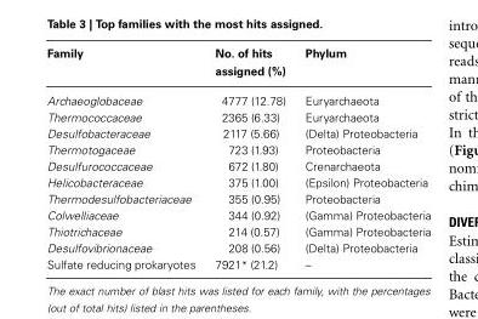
<table><thead><tr><td>Family</td><td>No. of hits assigned (%)</td><td>Phylum</td></tr></thead><tbody><tr><td>Archaeoglobaceae</td><td>4777 (12.78)</td><td>Euryarchaeota</td></tr><tr><td>Thermococcaceae</td><td>2365 (6.33)</td><td>Euryarchaeota</td></tr><tr><td>Desulfobacteraceae</td><td>2117 (5.66)</td><td>(Delta) Proteobacteria</td></tr><tr><td>Thermotogaceae</td><td>723 (1.93)</td><td>Proteobacteria</td></tr><tr><td>Desulfurococcaceae</td><td>672 (1.80)</td><td>Crenarchaeota</td></tr><tr><td>Helicobacteraceae</td><td>375 (1.00)</td><td>(Epsilon) Proteobacteria</td></tr><tr><td>Thermodesulfobacteriaceae</td><td>355 (0.95)</td><td>Proteobacteria</td></tr><tr><td>Colwelliaceae</td><td>344 (0.92)</td><td>(Gamma) Proteobacteria</td></tr><tr><td>Thiotrichaceae</td><td>214 (0.57)</td><td>(Gamma) Proteobacteria</td></tr><tr><td>Desulfovibrionaceae</td><td>208 (0.56)</td><td>(Delta) Proteobacteria</td></tr><tr><td>Sulfate reducing prokaryotes</td><td>7921* (21.2)</td><td>–</td></tr></tbody></table>